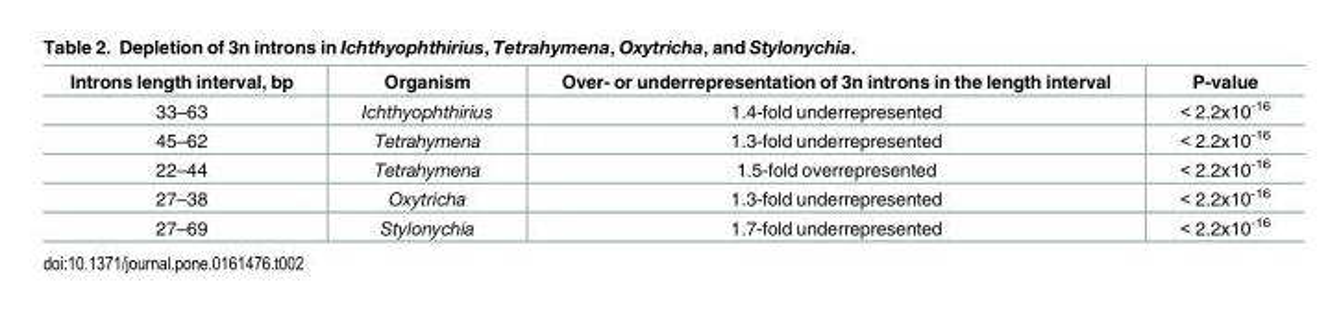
<table><thead><tr><td>Introns length interval, bp</td><td>Organism</td><td>Over- or underrepresentation of 3n introns in the length interval</td><td>P-value</td></tr></thead><tbody><tr><td>33–63</td><td>Ichthyophthirius</td><td>1.4-fold underrepresented</td><td>&lt; 2.2x10<sup>-16</sup></td></tr><tr><td>45–62</td><td>Tetrahymena</td><td>1.3-fold underrepresented</td><td>&lt; 2.2x10<sup>-16</sup></td></tr><tr><td>22–44</td><td>Tetrahymena</td><td>1.5-fold overrepresented</td><td>&lt; 2.2x10<sup>-16</sup></td></tr><tr><td>27–38</td><td>Oxytricha</td><td>1.3-fold underrepresented</td><td>&lt; 2.2x10<sup>-16</sup></td></tr><tr><td>27–69</td><td>Stylonychia</td><td>1.7-fold underrepresented</td><td>&lt; 2.2x10<sup>-16</sup></td></tr></tbody></table>